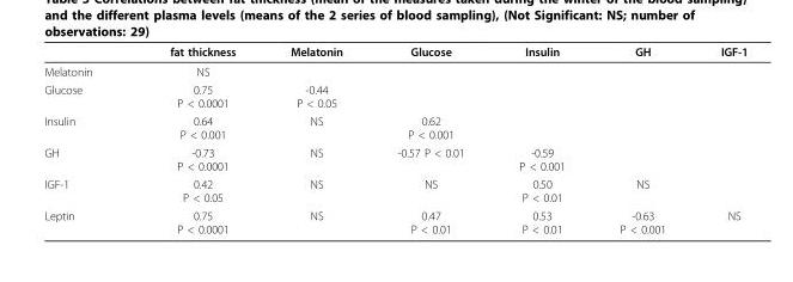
<table><thead><tr><td></td><td>fat thickness</td><td>Melatonin</td><td>Glucose</td><td>Insulin</td><td>GH</td><td>IGF-1</td></tr></thead><tbody><tr><td>Melatonin</td><td>NS</td><td></td><td></td><td></td><td></td><td></td></tr><tr><td>Glucose</td><td>0.75 P &lt; 0.0001</td><td>-0.44 P &lt; 0.05</td><td></td><td></td><td></td><td></td></tr><tr><td>Insulin</td><td>0.64 P &lt; 0.001</td><td>NS</td><td>0.62 P &lt; 0.001</td><td></td><td></td><td></td></tr><tr><td>GH</td><td>-0.73 P &lt; 0.0001</td><td>NS</td><td>-0.57 P &lt; 0.01</td><td>-0.59 P &lt; 0.001</td><td></td><td></td></tr><tr><td>IGF-1</td><td>0.42 P &lt; 0.05</td><td>NS</td><td>NS</td><td>0.50 P &lt; 0.01</td><td>NS</td><td></td></tr><tr><td>Leptin</td><td>0.75 P &lt; 0.0001</td><td>NS</td><td>0.47 P &lt; 0.01</td><td>0.53 P &lt; 0.01</td><td>-0.63 P &lt; 0.001</td><td>NS</td></tr></tbody></table>